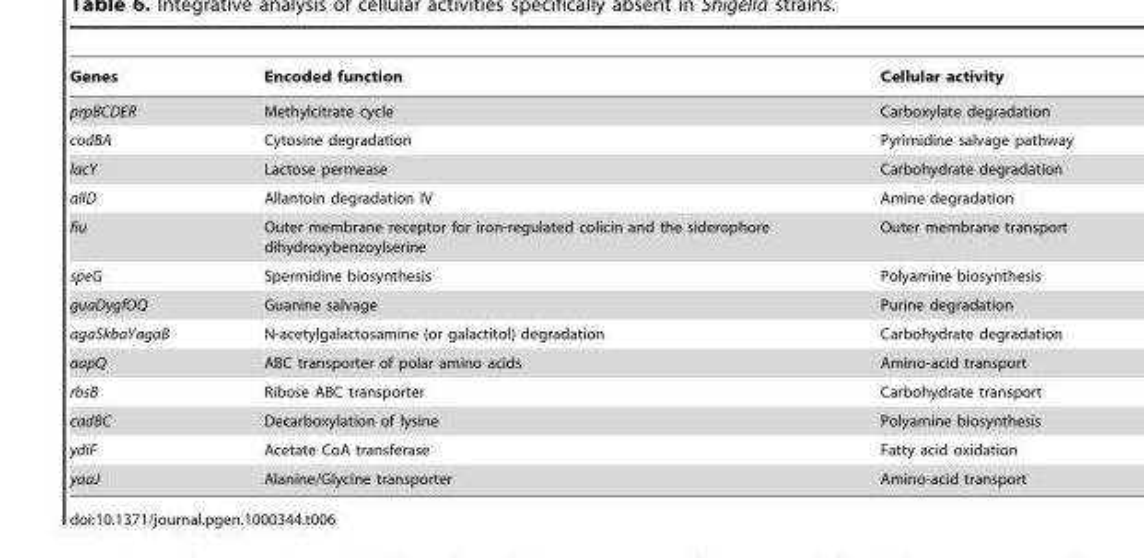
<table><thead><tr><td>Genes</td><td>Encoded function</td><td>Cellular activity</td></tr></thead><tbody><tr><td>prpBCDER</td><td>Methylcitrate cycle</td><td>Carboxylate degradation</td></tr><tr><td>codBA</td><td>Cytosine degradation</td><td>Pyrimidine salvage pathway</td></tr><tr><td>lacY</td><td>Lactose permease</td><td>Carbohydrate degradation</td></tr><tr><td>allD</td><td>Allantoin degradation IV</td><td>Amine degradation</td></tr><tr><td>fiu</td><td>Outer membrane receptor for iron-regulated colicin and the siderophore dihydroxybenzoylserine</td><td>Outer membrane transport</td></tr><tr><td>speG</td><td>Spermidine biosynthesis</td><td>Polyamine biosynthesis</td></tr><tr><td>guaDygfOQ</td><td>Guanine salvage</td><td>Purine degradation</td></tr><tr><td>agaSkbaYagaB</td><td>N-acetylgalactosamine (or galactitol) degradation</td><td>Carbohydrate degradation</td></tr><tr><td>aapQ</td><td>ABC transporter of polar amino acids</td><td>Amino-acid transport</td></tr><tr><td>rbsB</td><td>Ribose ABC transporter</td><td>Carbohydrate transport</td></tr><tr><td>cadBC</td><td>Decarboxylation of lysine</td><td>Polyamine biosynthesis</td></tr><tr><td>ydiF</td><td>Acetate CoA transferase</td><td>Fatty acid oxidation</td></tr><tr><td>yaaJ</td><td>Alanine/Glycine transporter</td><td>Amino-acid transport</td></tr></tbody></table>